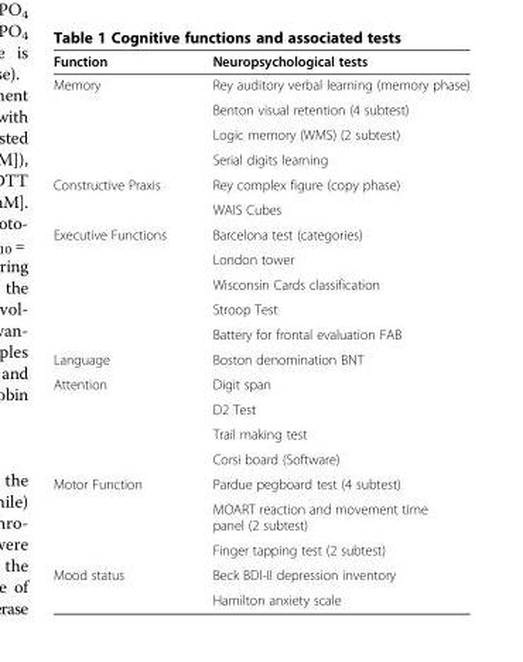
<table><thead><tr><td>Function</td><td>Neuropsychological tests</td></tr></thead><tbody><tr><td rowspan="4">Memory</td><td>Rey auditory verbal learning (memory phase)</td></tr><tr><td>Benton visual retention (4 subtest)</td></tr><tr><td>Logic memory (WMS) (2 subtest)</td></tr><tr><td>Serial digits learning</td></tr><tr><td rowspan="2">Constructive Praxis</td><td>Rey complex figure (copy phase)</td></tr><tr><td>WAIS Cubes</td></tr><tr><td rowspan="5">Executive Functions</td><td>Barcelona test (categories)</td></tr><tr><td>London tower</td></tr><tr><td>Wisconsin Cards classification</td></tr><tr><td>Stroop Test</td></tr><tr><td>Battery for frontal evaluation FAB</td></tr><tr><td>Language</td><td>Boston denomination BNT</td></tr><tr><td rowspan="4">Attention</td><td>Digit span</td></tr><tr><td>D2 Test</td></tr><tr><td>Trail making test</td></tr><tr><td>Corsi board (Software)</td></tr><tr><td rowspan="3">Motor Function</td><td>Pardue pegboard test (4 subtest)</td></tr><tr><td>MOART reaction and movement time panel (2 subtest)</td></tr><tr><td>Finger tapping test (2 subtest)</td></tr><tr><td rowspan="2">Mood status</td><td>Beck BDI-II depression inventory</td></tr><tr><td>Hamilton anxiety scale</td></tr></tbody></table>